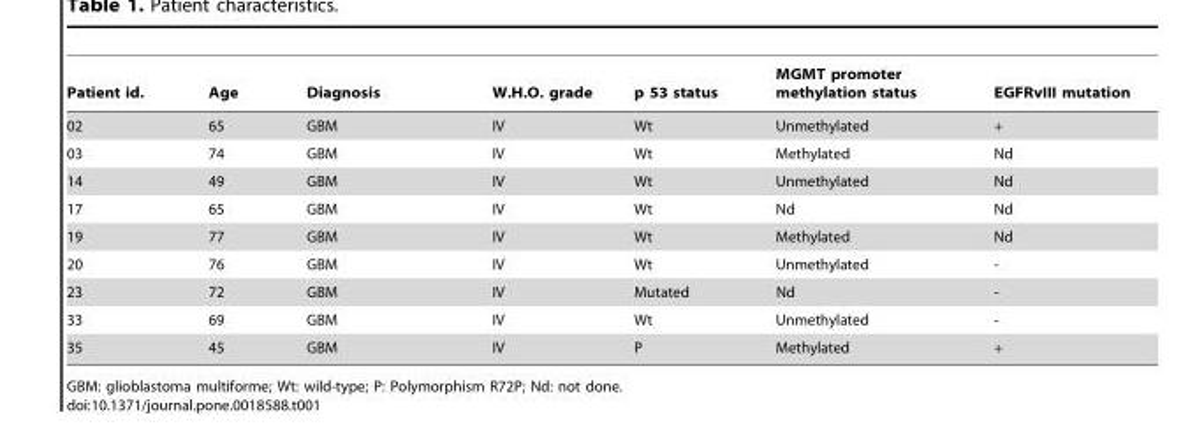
<table><thead><tr><td>Patient id.</td><td>Age</td><td>Diagnosis</td><td>W.H.O. grade</td><td>p 53 status</td><td>MGMT promoter methylation status</td><td>EGFRvIII mutation</td></tr></thead><tbody><tr><td>02</td><td>65</td><td>GBM</td><td>IV</td><td>Wt</td><td>Unmethylated</td><td>+</td></tr><tr><td>03</td><td>74</td><td>GBM</td><td>IV</td><td>Wt</td><td>Methylated</td><td>Nd</td></tr><tr><td>14</td><td>49</td><td>GBM</td><td>IV</td><td>Wt</td><td>Unmethylated</td><td>Nd</td></tr><tr><td>17</td><td>65</td><td>GBM</td><td>IV</td><td>Wt</td><td>Nd</td><td>Nd</td></tr><tr><td>19</td><td>77</td><td>GBM</td><td>IV</td><td>Wt</td><td>Methylated</td><td>Nd</td></tr><tr><td>20</td><td>76</td><td>GBM</td><td>IV</td><td>Wt</td><td>Unmethylated</td><td>-</td></tr><tr><td>23</td><td>72</td><td>GBM</td><td>IV</td><td>Mutated</td><td>Nd</td><td>-</td></tr><tr><td>33</td><td>69</td><td>GBM</td><td>IV</td><td>Wt</td><td>Unmethylated</td><td>-</td></tr><tr><td>35</td><td>45</td><td>GBM</td><td>IV</td><td>P</td><td>Methylated</td><td>+</td></tr></tbody></table>